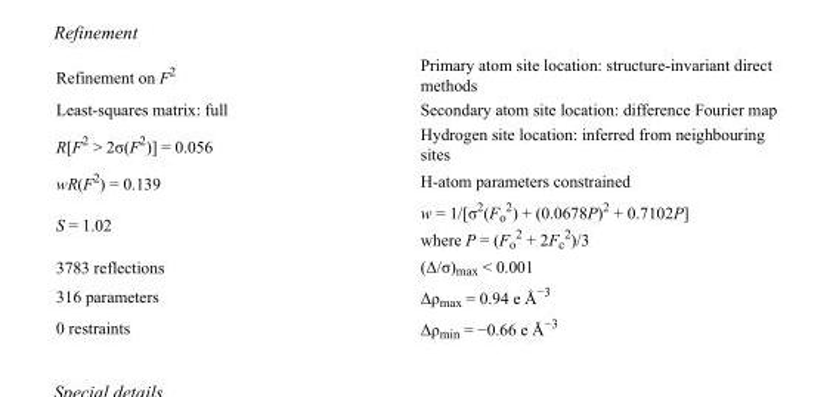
<table><tbody><tr><td>Refinement on F<sup>2</sup></td><td>Primary atom site location: structure-invariant direct methods</td></tr><tr><td>Least-squares matrix: full</td><td>Secondary atom site location: difference Fourier map</td></tr><tr><td>R[F<sup>2</sup> &gt; 2σ(F<sup>2</sup>)] = 0.056</td><td>Hydrogen site location: inferred from neighbouring sites</td></tr><tr><td>wR(F<sup>2</sup>) = 0.139</td><td>H-atom parameters constrained</td></tr><tr><td>S = 1.02</td><td>w = 1/[σ<sup>2</sup>(F<sub>o</sub> <sup>2</sup>) + (0.0678P)<sup>2</sup> + 0.7102P] where P = (F<sub>o</sub> <sup>2</sup> + 2F<sub>c</sub> <sup>2</sup>)/3</td></tr><tr><td>3783 reflections</td><td>(Δ/σ)<sub>max</sub> &lt; 0.001</td></tr><tr><td>316 parameters</td><td>Δρ<sub>max</sub> = 0.94 e Å<sup>−3</sup></td></tr><tr><td>0 restraints</td><td>Δρ<sub>min</sub> = −0.66 e Å<sup>−3</sup></td></tr></tbody></table>